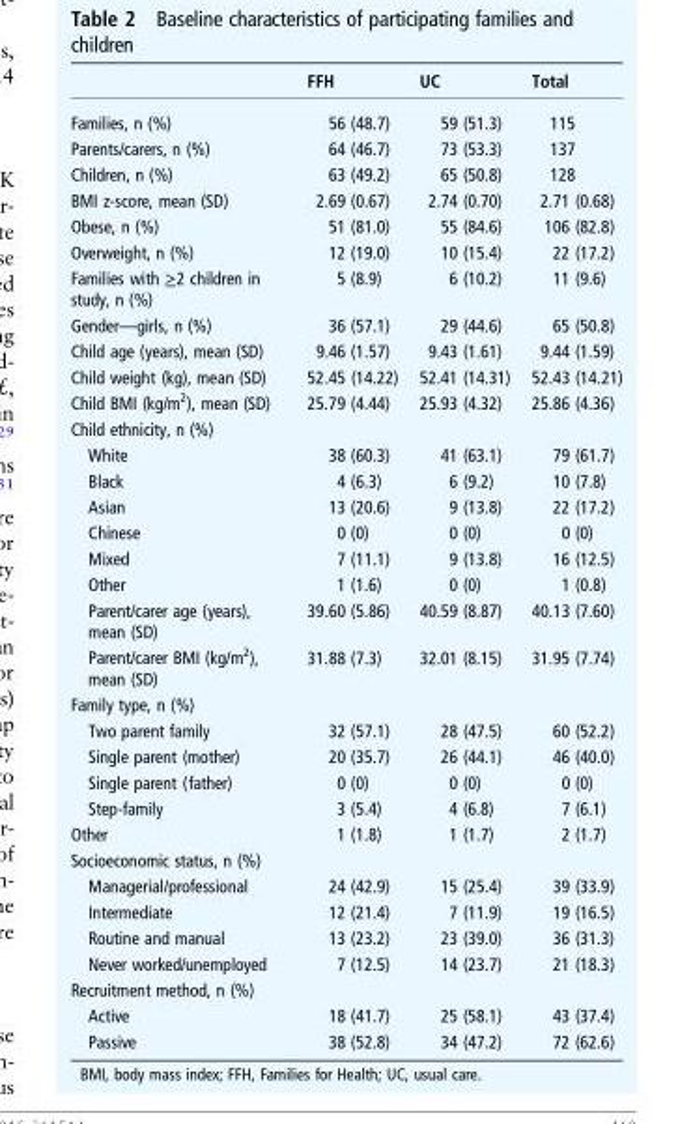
<table><thead><tr><td></td><td>FFH</td><td>UC</td><td>Total</td></tr></thead><tbody><tr><td>Families, n (%)</td><td>56 (48.7)</td><td>59 (51.3)</td><td>115</td></tr><tr><td>Parents/carers, n (%)</td><td>64 (46.7)</td><td>73 (53.3)</td><td>137</td></tr><tr><td>Children, n (%)</td><td>63 (49.2)</td><td>65 (50.8)</td><td>128</td></tr><tr><td>BMI z-score, mean (SD)</td><td>2.69 (0.67)</td><td>2.74 (0.70)</td><td>2.71 (0.68)</td></tr><tr><td>Obese, n (%)</td><td>51 (81.0)</td><td>55 (84.6)</td><td>106 (82.8)</td></tr><tr><td>Overweight, n (%)</td><td>12 (19.0)</td><td>10 (15.4)</td><td>22 (17.2)</td></tr><tr><td>Families with ≥2 children in study, n (%)</td><td>5 (8.9)</td><td>6 (10.2)</td><td>11 (9.6)</td></tr><tr><td>Gender—girls, n (%)</td><td>36 (57.1)</td><td>29 (44.6)</td><td>65 (50.8)</td></tr><tr><td>Child age (years), mean (SD)</td><td>9.46 (1.57)</td><td>9.43 (1.61)</td><td>9.44 (1.59)</td></tr><tr><td>Child weight (kg), mean (SD)</td><td>52.45 (14.22)</td><td>52.41 (14.31)</td><td>52.43 (14.21)</td></tr><tr><td>Child BMI (kg/m<sup>2</sup>), mean (SD)</td><td>25.79 (4.44)</td><td>25.93 (4.32)</td><td>25.86 (4.36)</td></tr><tr><td colspan="4">Child ethnicity, n (%)</td></tr><tr><td>White</td><td>38 (60.3)</td><td>41 (63.1)</td><td>79 (61.7)</td></tr><tr><td>Black</td><td>4 (6.3)</td><td>6 (9.2)</td><td>10 (7.8)</td></tr><tr><td>Asian</td><td>13 (20.6)</td><td>9 (13.8)</td><td>22 (17.2)</td></tr><tr><td>Chinese</td><td>0 (0)</td><td>0 (0)</td><td>0 (0)</td></tr><tr><td>Mixed</td><td>7 (11.1)</td><td>9 (13.8)</td><td>16 (12.5)</td></tr><tr><td>Other</td><td>1 (1.6)</td><td>0 (0)</td><td>1 (0.8)</td></tr><tr><td>Parent/carer age (years), mean (SD)</td><td>39.60 (5.86)</td><td>40.59 (8.87)</td><td>40.13 (7.60)</td></tr><tr><td>Parent/carer BMI (kg/m<sup>2</sup>), mean (SD)</td><td>31.88 (7.3)</td><td>32.01 (8.15)</td><td>31.95 (7.74)</td></tr><tr><td colspan="4">Family type, n (%)</td></tr><tr><td>Two parent family</td><td>32 (57.1)</td><td>28 (47.5)</td><td>60 (52.2)</td></tr><tr><td>Single parent (mother)</td><td>20 (35.7)</td><td>26 (44.1)</td><td>46 (40.0)</td></tr><tr><td>Single parent (father)</td><td>0 (0)</td><td>0 (0)</td><td>0 (0)</td></tr><tr><td>Step-family</td><td>3 (5.4)</td><td>4 (6.8)</td><td>7 (6.1)</td></tr><tr><td>Other</td><td>1 (1.8)</td><td>1 (1.7)</td><td>2 (1.7)</td></tr><tr><td colspan="4">Socioeconomic status, n (%)</td></tr><tr><td>Managerial/professional</td><td>24 (42.9)</td><td>15 (25.4)</td><td>39 (33.9)</td></tr><tr><td>Intermediate</td><td>12 (21.4)</td><td>7 (11.9)</td><td>19 (16.5)</td></tr><tr><td>Routine and manual</td><td>13 (23.2)</td><td>23 (39.0)</td><td>36 (31.3)</td></tr><tr><td>Never worked/unemployed</td><td>7 (12.5)</td><td>14 (23.7)</td><td>21 (18.3)</td></tr><tr><td colspan="4">Recruitment method, n (%)</td></tr><tr><td>Active</td><td>18 (41.7)</td><td>25 (58.1)</td><td>43 (37.4)</td></tr><tr><td>Passive</td><td>38 (52.8)</td><td>34 (47.2)</td><td>72 (62.6)</td></tr></tbody></table>